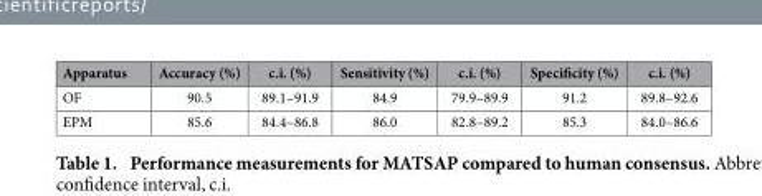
<table><thead><tr><td>Apparatus</td><td>Accuracy (%)</td><td>c.i. (%)</td><td>Sensitivity (%)</td><td>c.i. (%)</td><td>Specificity (%)</td><td>c.i. (%)</td></tr></thead><tbody><tr><td>OF</td><td>90.5</td><td>89.1–91.9</td><td>84.9</td><td>79.9–89.9</td><td>91.2</td><td>89.8–92.6</td></tr><tr><td>EPM</td><td>85.6</td><td>84.4–86.8</td><td>86.0</td><td>82.8–89.2</td><td>85.3</td><td>84.0–86.6</td></tr></tbody></table>